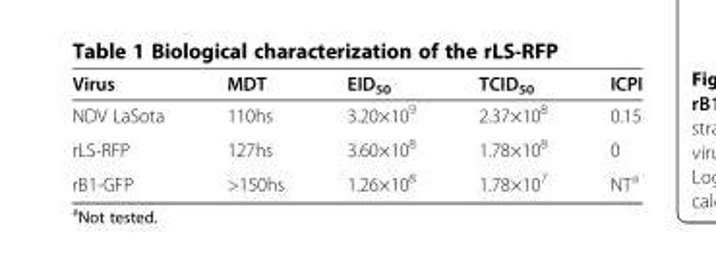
<table><thead><tr><td>Virus</td><td>MDT</td><td>EID<sub>50</sub></td><td>TCID<sub>50</sub></td><td>ICPI</td></tr></thead><tbody><tr><td>NDV LaSota</td><td>110hs</td><td>3.20×10<sup>9</sup></td><td>2.37×10<sup>8</sup></td><td>0.15</td></tr><tr><td>rLS-RFP</td><td>127hs</td><td>3.60×10<sup>8</sup></td><td>1.78×10<sup>8</sup></td><td>0</td></tr><tr><td>rB1-GFP</td><td>&gt;150hs</td><td>1.26×10<sup>8</sup></td><td>1.78×10<sup>7</sup></td><td>NT<sup>a</sup></td></tr></tbody></table>